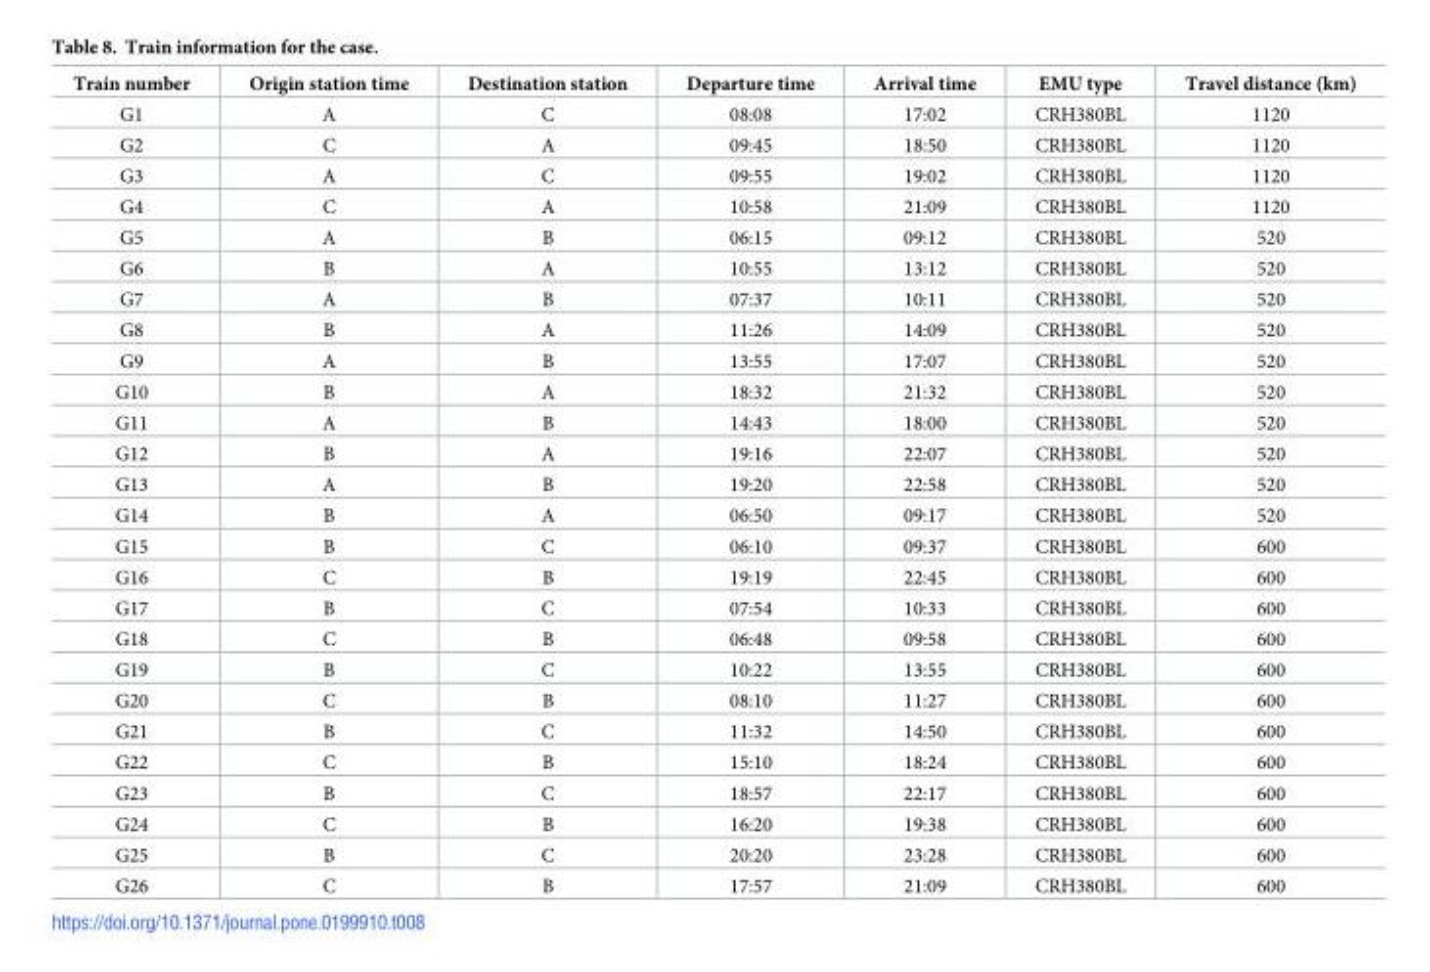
<table><thead><tr><td>Train number</td><td>Origin station time</td><td>Destination station</td><td>Departure time</td><td>Arrival time</td><td>EMU type</td><td>Travel distance (km)</td></tr></thead><tbody><tr><td>G1</td><td>A</td><td>C</td><td>08:08</td><td>17:02</td><td>CRH380BL</td><td>1120</td></tr><tr><td>G2</td><td>C</td><td>A</td><td>09:45</td><td>18:50</td><td>CRH380BL</td><td>1120</td></tr><tr><td>G3</td><td>A</td><td>C</td><td>09:55</td><td>19:02</td><td>CRH380BL</td><td>1120</td></tr><tr><td>G4</td><td>C</td><td>A</td><td>10:58</td><td>21:09</td><td>CRH380BL</td><td>1120</td></tr><tr><td>G5</td><td>A</td><td>B</td><td>06:15</td><td>09:12</td><td>CRH380BL</td><td>520</td></tr><tr><td>G6</td><td>B</td><td>A</td><td>10:55</td><td>13:12</td><td>CRH380BL</td><td>520</td></tr><tr><td>G7</td><td>A</td><td>B</td><td>07:37</td><td>10:11</td><td>CRH380BL</td><td>520</td></tr><tr><td>G8</td><td>B</td><td>A</td><td>11:26</td><td>14:09</td><td>CRH380BL</td><td>520</td></tr><tr><td>G9</td><td>A</td><td>B</td><td>13:55</td><td>17:07</td><td>CRH380BL</td><td>520</td></tr><tr><td>G10</td><td>B</td><td>A</td><td>18:32</td><td>21:32</td><td>CRH380BL</td><td>520</td></tr><tr><td>G11</td><td>A</td><td>B</td><td>14:43</td><td>18:00</td><td>CRH380BL</td><td>520</td></tr><tr><td>G12</td><td>B</td><td>A</td><td>19:16</td><td>22:07</td><td>CRH380BL</td><td>520</td></tr><tr><td>G13</td><td>A</td><td>B</td><td>19:20</td><td>22:58</td><td>CRH380BL</td><td>520</td></tr><tr><td>G14</td><td>B</td><td>A</td><td>06:50</td><td>09:17</td><td>CRH380BL</td><td>520</td></tr><tr><td>G15</td><td>B</td><td>C</td><td>06:10</td><td>09:37</td><td>CRH380BL</td><td>600</td></tr><tr><td>G16</td><td>C</td><td>B</td><td>19:19</td><td>22:45</td><td>CRH380BL</td><td>600</td></tr><tr><td>G17</td><td>B</td><td>C</td><td>07:54</td><td>10:33</td><td>CRH380BL</td><td>600</td></tr><tr><td>G18</td><td>C</td><td>B</td><td>06:48</td><td>09:58</td><td>CRH380BL</td><td>600</td></tr><tr><td>G19</td><td>B</td><td>C</td><td>10:22</td><td>13:55</td><td>CRH380BL</td><td>600</td></tr><tr><td>G20</td><td>C</td><td>B</td><td>08:10</td><td>11:27</td><td>CRH380BL</td><td>600</td></tr><tr><td>G21</td><td>B</td><td>C</td><td>11:32</td><td>14:50</td><td>CRH380BL</td><td>600</td></tr><tr><td>G22</td><td>C</td><td>B</td><td>15:10</td><td>18:24</td><td>CRH380BL</td><td>600</td></tr><tr><td>G23</td><td>B</td><td>C</td><td>18:57</td><td>22:17</td><td>CRH380BL</td><td>600</td></tr><tr><td>G24</td><td>C</td><td>B</td><td>16:20</td><td>19:38</td><td>CRH380BL</td><td>600</td></tr><tr><td>G25</td><td>B</td><td>C</td><td>20:20</td><td>23:28</td><td>CRH380BL</td><td>600</td></tr><tr><td>G26</td><td>C</td><td>B</td><td>17:57</td><td>21:09</td><td>CRH380BL</td><td>600</td></tr></tbody></table>